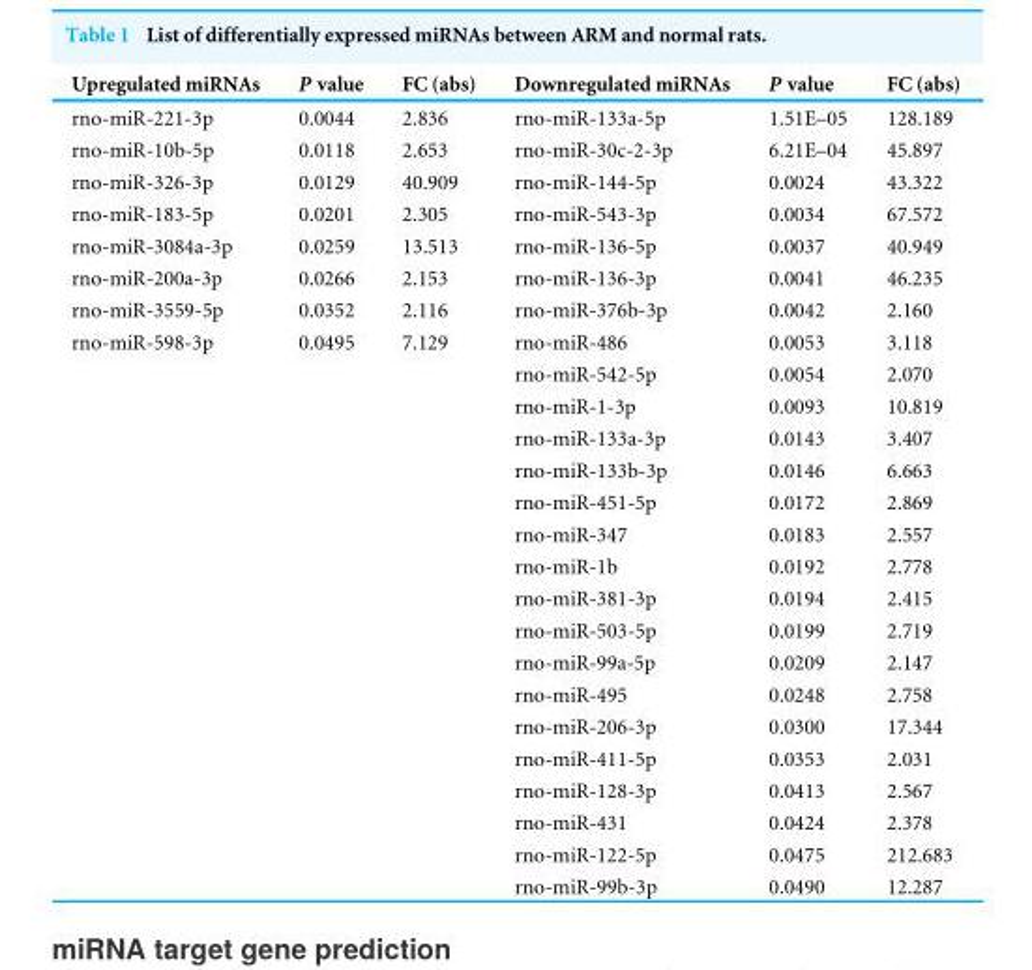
<table><thead><tr><td>Upregulated miRNAs</td><td>P value</td><td>FC (abs)</td><td>Downregulated miRNAs</td><td>P value</td><td>FC (abs)</td></tr></thead><tbody><tr><td>rno-miR-221-3p</td><td>0.0044</td><td>2.836</td><td>rno-miR-133a-5p</td><td>1.51E–05</td><td>128.189</td></tr><tr><td>rno-miR-10b-5p</td><td>0.0118</td><td>2.653</td><td>rno-miR-30c-2-3p</td><td>6.21E–04</td><td>45.897</td></tr><tr><td>rno-miR-326-3p</td><td>0.0129</td><td>40.909</td><td>rno-miR-144-5p</td><td>0.0024</td><td>43.322</td></tr><tr><td>rno-miR-183-5p</td><td>0.0201</td><td>2.305</td><td>rno-miR-543-3p</td><td>0.0034</td><td>67.572</td></tr><tr><td>rno-miR-3084a-3p</td><td>0.0259</td><td>13.513</td><td>rno-miR-136-5p</td><td>0.0037</td><td>40.949</td></tr><tr><td>rno-miR-200a-3p</td><td>0.0266</td><td>2.153</td><td>rno-miR-136-3p</td><td>0.0041</td><td>46.235</td></tr><tr><td>rno-miR-3559-5p</td><td>0.0352</td><td>2.116</td><td>rno-miR-376b-3p</td><td>0.0042</td><td>2.160</td></tr><tr><td rowspan="18">rno-miR-598-3p</td><td>0.0495</td><td>7.129</td><td>rno-miR-486</td><td>0.0053</td><td>3.118</td></tr><tr><td></td><td></td><td>rno-miR-542-5p</td><td>0.0054</td><td>2.070</td></tr><tr><td></td><td></td><td>rno-miR-1-3p</td><td>0.0093</td><td>10.819</td></tr><tr><td></td><td></td><td>rno-miR-133a-3p</td><td>0.0143</td><td>3.407</td></tr><tr><td></td><td></td><td>rno-miR-133b-3p</td><td>0.0146</td><td>6.663</td></tr><tr><td></td><td></td><td>rno-miR-451-5p</td><td>0.0172</td><td>2.869</td></tr><tr><td></td><td></td><td>rno-miR-347</td><td>0.0183</td><td>2.557</td></tr><tr><td></td><td></td><td>rno-miR-1b</td><td>0.0192</td><td>2.778</td></tr><tr><td></td><td></td><td>rno-miR-381-3p</td><td>0.0194</td><td>2.415</td></tr><tr><td></td><td></td><td>rno-miR-503-5p</td><td>0.0199</td><td>2.719</td></tr><tr><td></td><td></td><td>rno-miR-99a-5p</td><td>0.0209</td><td>2.147</td></tr><tr><td></td><td></td><td>rno-miR-495</td><td>0.0248</td><td>2.758</td></tr><tr><td></td><td></td><td>rno-miR-206-3p</td><td>0.0300</td><td>17.344</td></tr><tr><td></td><td></td><td>rno-miR-411-5p</td><td>0.0353</td><td>2.031</td></tr><tr><td></td><td></td><td>rno-miR-128-3p</td><td>0.0413</td><td>2.567</td></tr><tr><td></td><td></td><td>rno-miR-431</td><td>0.0424</td><td>2.378</td></tr><tr><td></td><td></td><td>rno-miR-122-5p</td><td>0.0475</td><td>212.683</td></tr><tr><td></td><td></td><td>rno-miR-99b-3p</td><td>0.0490</td><td>12.287</td></tr></tbody></table>